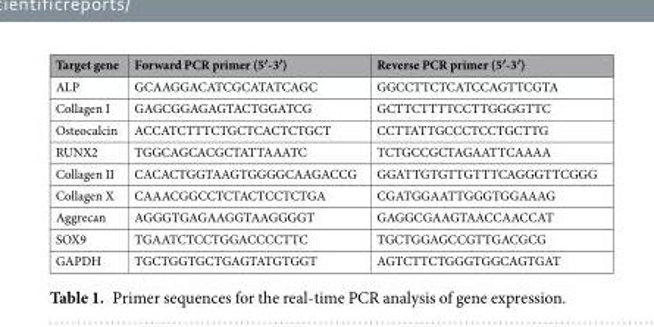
<table><thead><tr><td>Target gene</td><td>Forward PCR primer (5′-3′)</td><td>Reverse PCR primer (5′-3′)</td></tr></thead><tbody><tr><td>ALP</td><td>GCAAGGACATCGCATATCAGC</td><td>GGCCTTCTCATCCAGTTCGTA</td></tr><tr><td>Collagen I</td><td>GAGCGGAGAGTACTGGATCG</td><td>GCTTCTTTTCCTTGGGGTTC</td></tr><tr><td>Osteocalcin</td><td>ACCATCTTTCTGCTCACTCTGCT</td><td>CCTTATTGCCCTCCTGCTTG</td></tr><tr><td>RUNX2</td><td>TGGCAGCACGCTATTAAATC</td><td>TCTGCCGCTAGAATTCAAAA</td></tr><tr><td>Collagen II</td><td>CACACTGGTAAGTGGGGCAAGACCG</td><td>GGATTGTGTTGTTTCAGGGTTCGGG</td></tr><tr><td>Collagen X</td><td>CAAACGGCCTCTACTCCTCTGA</td><td>CGATGGAATTGGGTGGAAAG</td></tr><tr><td>Aggrecan</td><td>AGGGTGAGAAGGTAAGGGGT</td><td>GAGGCGAAGTAACCAACCAT</td></tr><tr><td>SOX9</td><td>TGAATCTCCTGGACCCCTTC</td><td>TGCTGGAGCCGTTGACGCG</td></tr><tr><td>GAPDH</td><td>TGCTGGTGCTGAGTATGTGGT</td><td>AGTCTTCTGGGTGGCAGTGAT</td></tr></tbody></table>